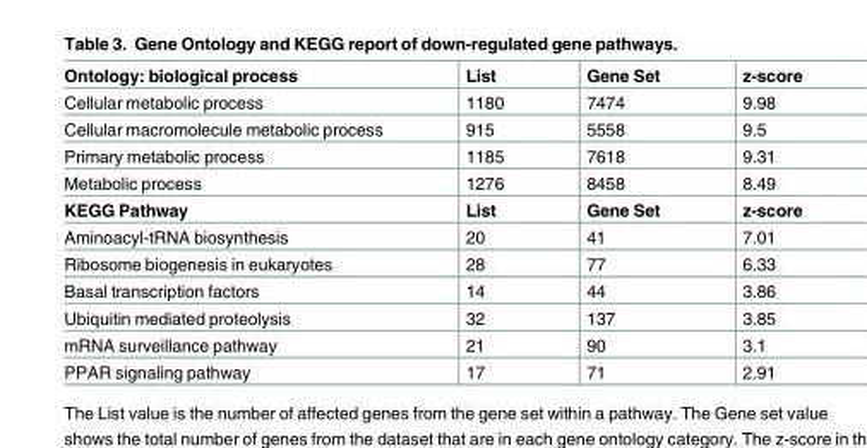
<table><tbody><tr><td>Ontology: biological process</td><td>List</td><td>Gene Set</td><td>z-score</td></tr><tr><td>Cellular metabolic process</td><td>1180</td><td>7474</td><td>9.98</td></tr><tr><td>Cellular macromolecule metabolic process</td><td>915</td><td>5558</td><td>9.5</td></tr><tr><td>Primary metabolic process</td><td>1185</td><td>7618</td><td>9.31</td></tr><tr><td>Metabolic process</td><td>1276</td><td>8458</td><td>8.49</td></tr><tr><td>KEGG Pathway</td><td>List</td><td>Gene Set</td><td>z-score</td></tr><tr><td>Aminoacyl-tRNA biosynthesis</td><td>20</td><td>41</td><td>7.01</td></tr><tr><td>Ribosome biogenesis in eukaryotes</td><td>28</td><td>77</td><td>6.33</td></tr><tr><td>Basal transcription factors</td><td>14</td><td>44</td><td>3.86</td></tr><tr><td>Ubiquitin mediated proteolysis</td><td>32</td><td>137</td><td>3.85</td></tr><tr><td>mRNA surveillance pathway</td><td>21</td><td>90</td><td>3.1</td></tr><tr><td>PPAR signaling pathway</td><td>17</td><td>71</td><td>2.91</td></tr></tbody></table>